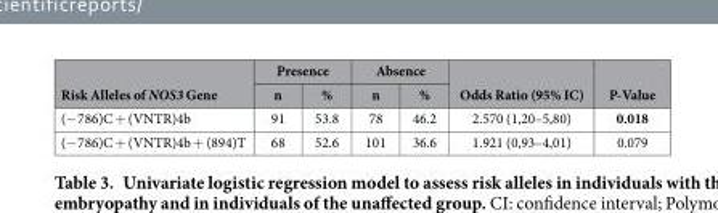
<table><thead><tr><td rowspan="2">Risk Alleles of NOS3 Gene</td><td colspan="2">Presence</td><td colspan="2">Absence</td><td rowspan="2">Odds Ratio (95% IC)</td><td rowspan="2">P-Value</td></tr><tr><td>n</td><td>%</td><td>n</td><td>%</td></tr></thead><tbody><tr><td>(− 786)C + (VNTR)4b</td><td>91</td><td>53.8</td><td>78</td><td>46.2</td><td>2.570 (1,20–5,80)</td><td>0.018</td></tr><tr><td>(− 786)C + (VNTR)4b + (894)T</td><td>68</td><td>52.6</td><td>101</td><td>36.6</td><td>1.921 (0,93–4,01)</td><td>0.079</td></tr></tbody></table>